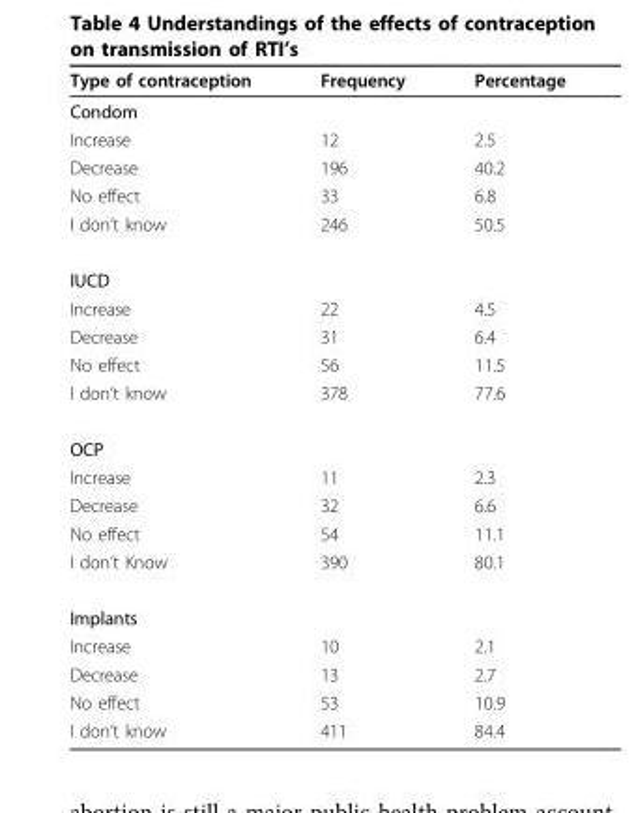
<table><thead><tr><td>Type of contraception</td><td>Frequency</td><td>Percentage</td></tr></thead><tbody><tr><td colspan="3">Condom</td></tr><tr><td>Increase</td><td>12</td><td>2.5</td></tr><tr><td>Decrease</td><td>196</td><td>40.2</td></tr><tr><td>No effect</td><td>33</td><td>6.8</td></tr><tr><td>I don’t know</td><td>246</td><td>50.5</td></tr><tr><td colspan="3">IUCD</td></tr><tr><td>Increase</td><td>22</td><td>4.5</td></tr><tr><td>Decrease</td><td>31</td><td>6.4</td></tr><tr><td>No effect</td><td>56</td><td>11.5</td></tr><tr><td>I don’t know</td><td>378</td><td>77.6</td></tr><tr><td colspan="3">OCP</td></tr><tr><td>Increase</td><td>11</td><td>2.3</td></tr><tr><td>Decrease</td><td>32</td><td>6.6</td></tr><tr><td>No effect</td><td>54</td><td>11.1</td></tr><tr><td>I don’t Know</td><td>390</td><td>80.1</td></tr><tr><td colspan="3">Implants</td></tr><tr><td>Increase</td><td>10</td><td>2.1</td></tr><tr><td>Decrease</td><td>13</td><td>2.7</td></tr><tr><td>No effect</td><td>53</td><td>10.9</td></tr><tr><td>I don’t know</td><td>411</td><td>84.4</td></tr></tbody></table>